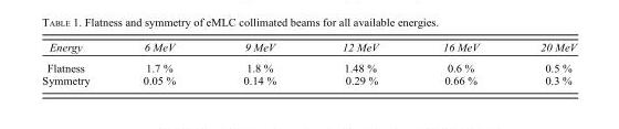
<table><thead><tr><td>Energy</td><td>6 MeV</td><td>9 MeV</td><td>12 MeV</td><td>16 MeV</td><td>20 MeV</td></tr></thead><tbody><tr><td>Flatness</td><td>1.7 %</td><td>1.8 %</td><td>1.48 %</td><td>0.6 %</td><td>0.5 %</td></tr><tr><td>Symmetry</td><td>0.05 %</td><td>0.14 %</td><td>0.29 %</td><td>0.66 %</td><td>0.3 %</td></tr></tbody></table>